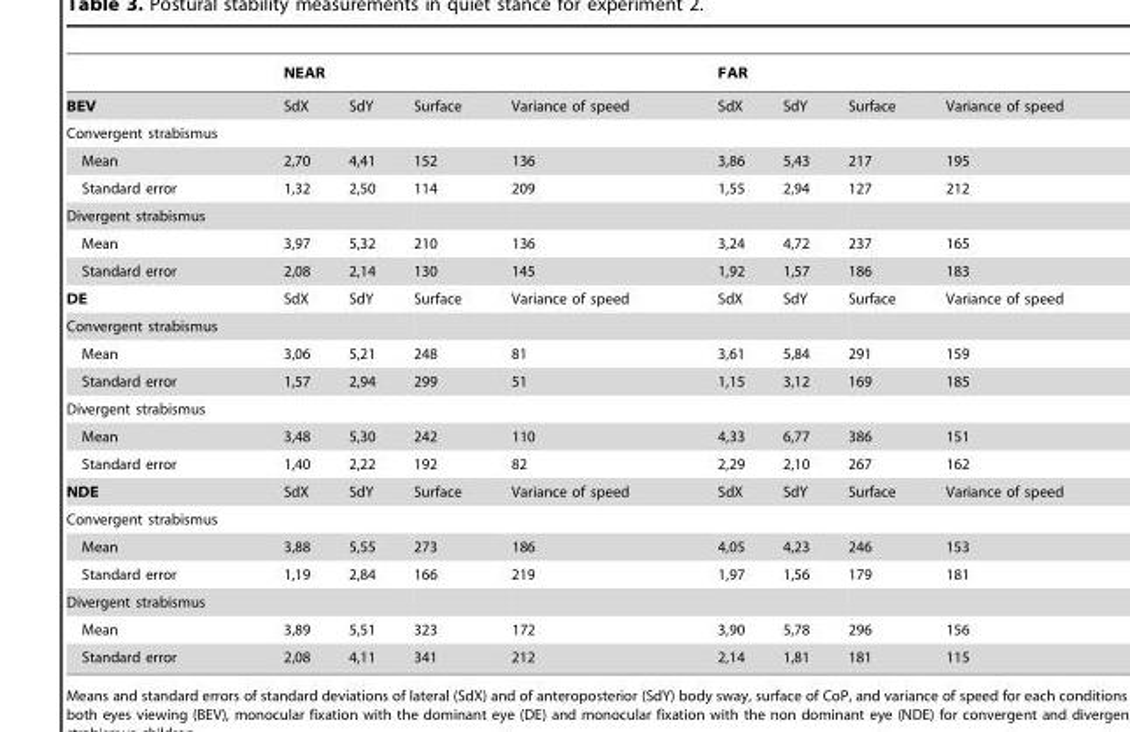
<table><thead><tr><td rowspan="2">BEV</td><td colspan="4">NEAR</td><td colspan="4">FAR</td></tr><tr><td>SdX</td><td>SdY</td><td>Surface</td><td>Variance of speed</td><td>SdX</td><td>SdY</td><td>Surface</td><td>Variance of speed</td></tr></thead><tbody><tr><td colspan="9">Convergent strabismus</td></tr><tr><td>Mean</td><td>2,70</td><td>4,41</td><td>152</td><td>136</td><td>3,86</td><td>5,43</td><td>217</td><td>195</td></tr><tr><td>Standard error</td><td>1,32</td><td>2,50</td><td>114</td><td>209</td><td>1,55</td><td>2,94</td><td>127</td><td>212</td></tr><tr><td colspan="9">Divergent strabismus</td></tr><tr><td>Mean</td><td>3,97</td><td>5,32</td><td>210</td><td>136</td><td>3,24</td><td>4,72</td><td>237</td><td>165</td></tr><tr><td>Standard error</td><td>2,08</td><td>2,14</td><td>130</td><td>145</td><td>1,92</td><td>1,57</td><td>186</td><td>183</td></tr><tr><td>DE</td><td>SdX</td><td>SdY</td><td>Surface</td><td>Variance of speed</td><td>SdX</td><td>SdY</td><td>Surface</td><td>Variance of speed</td></tr><tr><td colspan="9">Convergent strabismus</td></tr><tr><td>Mean</td><td>3,06</td><td>5,21</td><td>248</td><td>81</td><td>3,61</td><td>5,84</td><td>291</td><td>159</td></tr><tr><td>Standard error</td><td>1,57</td><td>2,94</td><td>299</td><td>51</td><td>1,15</td><td>3,12</td><td>169</td><td>185</td></tr><tr><td colspan="9">Divergent strabismus</td></tr><tr><td>Mean</td><td>3,48</td><td>5,30</td><td>242</td><td>110</td><td>4,33</td><td>6,77</td><td>386</td><td>151</td></tr><tr><td>Standard error</td><td>1,40</td><td>2,22</td><td>192</td><td>82</td><td>2,29</td><td>2,10</td><td>267</td><td>162</td></tr><tr><td>NDE</td><td>SdX</td><td>SdY</td><td>Surface</td><td>Variance of speed</td><td>SdX</td><td>SdY</td><td>Surface</td><td>Variance of speed</td></tr><tr><td colspan="9">Convergent strabismus</td></tr><tr><td>Mean</td><td>3,88</td><td>5,55</td><td>273</td><td>186</td><td>4,05</td><td>4,23</td><td>246</td><td>153</td></tr><tr><td>Standard error</td><td>1,19</td><td>2,84</td><td>166</td><td>219</td><td>1,97</td><td>1,56</td><td>179</td><td>181</td></tr><tr><td colspan="9">Divergent strabismus</td></tr><tr><td>Mean</td><td>3,89</td><td>5,51</td><td>323</td><td>172</td><td>3,90</td><td>5,78</td><td>296</td><td>156</td></tr><tr><td>Standard error</td><td>2,08</td><td>4,11</td><td>341</td><td>212</td><td>2,14</td><td>1,81</td><td>181</td><td>115</td></tr></tbody></table>